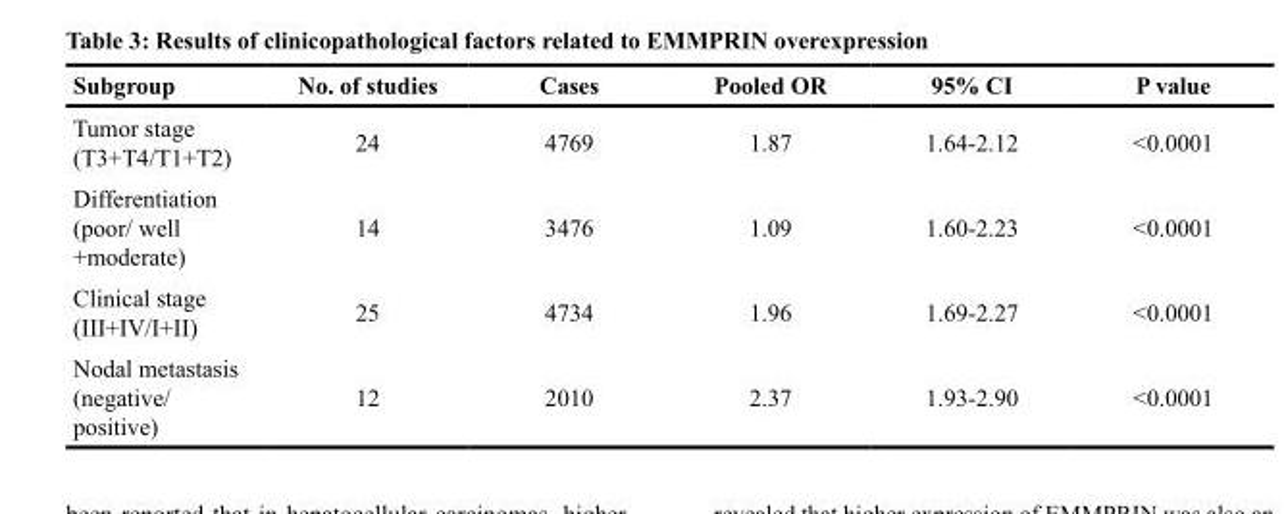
<table><thead><tr><td>Subgroup</td><td>No. of studies</td><td>Cases</td><td>Pooled OR</td><td>95% CI</td><td>P value</td></tr></thead><tbody><tr><td>Tumor stage (T3+T4/T1+T2)</td><td>24</td><td>4769</td><td>1.87</td><td>1.64-2.12</td><td>&lt;0.0001</td></tr><tr><td>Differentiation (poor/ well +moderate)</td><td>14</td><td>3476</td><td>1.09</td><td>1.60-2.23</td><td>&lt;0.0001</td></tr><tr><td>Clinical stage (III+IV/I+II)</td><td>25</td><td>4734</td><td>1.96</td><td>1.69-2.27</td><td>&lt;0.0001</td></tr><tr><td>Nodal metastasis (negative/ positive)</td><td>12</td><td>2010</td><td>2.37</td><td>1.93-2.90</td><td>&lt;0.0001</td></tr></tbody></table>